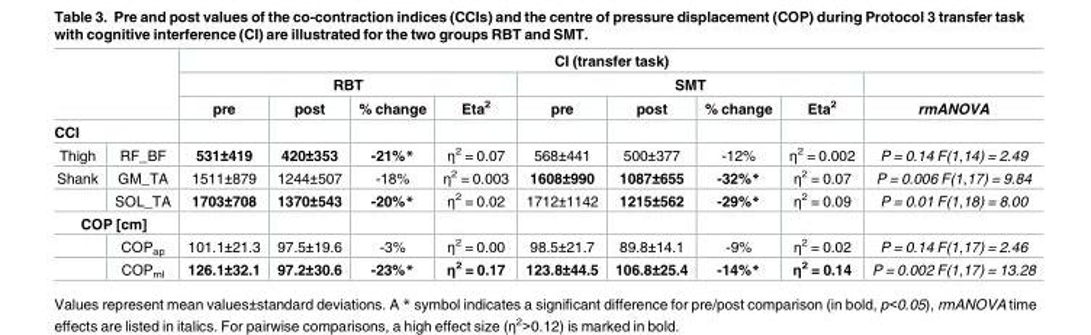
<table><thead><tr><td rowspan="3"></td><td rowspan="3"></td><td colspan="9">CI (transfer task)</td></tr><tr><td colspan="4">RBT</td><td colspan="4">SMT</td><td rowspan="2">rmANOVA</td></tr><tr><td>pre</td><td>post</td><td>% change</td><td>Eta<sup>2</sup></td><td>pre</td><td>post</td><td>% change</td><td>Eta<sup>2</sup></td></tr></thead><tbody><tr><td colspan="11">CCI</td></tr><tr><td>Thigh</td><td>RF_BF</td><td>531±419</td><td>420±353</td><td>-21%*</td><td>η<sup>2</sup> = 0.07</td><td>568±441</td><td>500±377</td><td>-12%</td><td>η<sup>2</sup> = 0.002</td><td>P = 0.14 F(1,14) = 2.49</td></tr><tr><td rowspan="2">Shank</td><td>GM_TA</td><td>1511±879</td><td>1244±507</td><td>-18%</td><td>η<sup>2</sup> = 0.003</td><td>1608±990</td><td>1087±655</td><td>-32%*</td><td>η<sup>2</sup> = 0.07</td><td>P = 0.006 F(1,17) = 9.84</td></tr><tr><td>SOL_TA</td><td>1703±708</td><td>1370±543</td><td>-20%*</td><td>η<sup>2</sup> = 0.02</td><td>1712±1142</td><td>1215±562</td><td>-29%*</td><td>η<sup>2</sup> = 0.09</td><td>P = 0.01 F(1,18) = 8.00</td></tr><tr><td colspan="11">COP [cm]</td></tr><tr><td></td><td>COP<sub>ap</sub></td><td>101.1±21.3</td><td>97.5±19.6</td><td>-3%</td><td>η<sup>2</sup> = 0.00</td><td>98.5±21.7</td><td>89.8±14.1</td><td>-9%</td><td>η<sup>2</sup> = 0.02</td><td>P = 0.14 F(1,17) = 2.46</td></tr><tr><td></td><td>COP<sub>ml</sub></td><td>126.1±32.1</td><td>97.2±30.6</td><td>-23%*</td><td>η<sup>2</sup> = 0.17</td><td>123.8±44.5</td><td>106.8±25.4</td><td>-14%*</td><td>η<sup>2</sup> = 0.14</td><td>P = 0.002 F(1,17) = 13.28</td></tr></tbody></table>